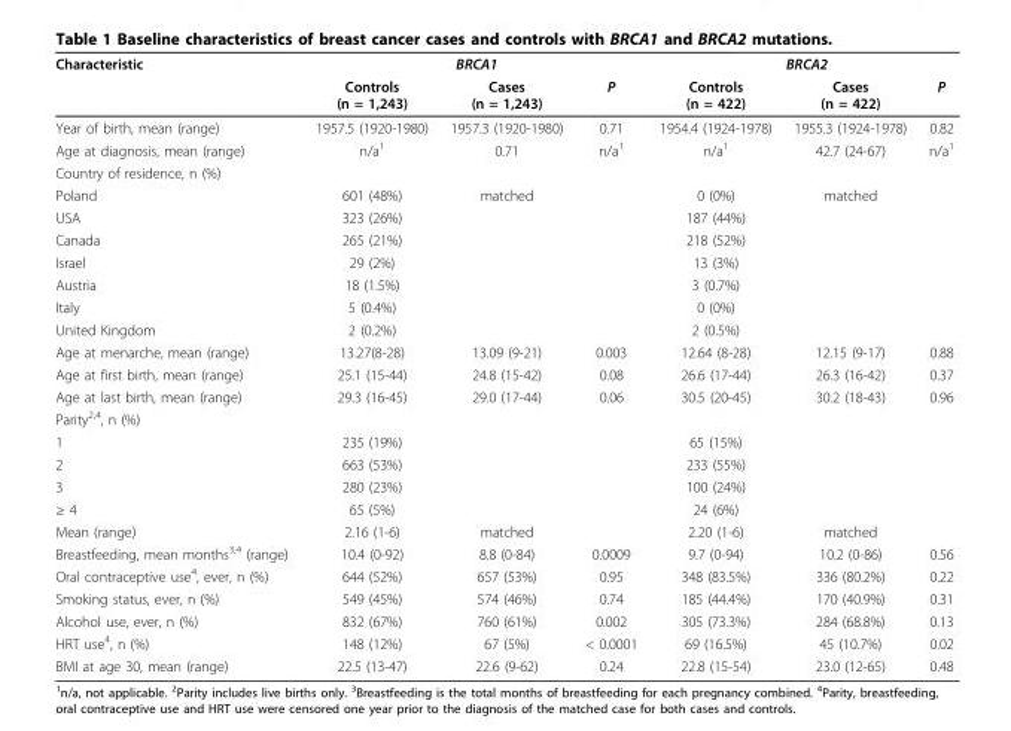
<table><thead><tr><td rowspan="2">Characteristic</td><td colspan="3">BRCA1</td><td colspan="3">BRCA2</td></tr><tr><td>Controls (n = 1,243)</td><td>Cases (n = 1,243)</td><td>P</td><td>Controls (n = 422)</td><td>Cases (n = 422)</td><td>P</td></tr></thead><tbody><tr><td>Year of birth, mean (range)</td><td>1957.5 (1920-1980)</td><td>1957.3 (1920-1980)</td><td>0.71</td><td>1954.4 (1924-1978)</td><td>1955.3 (1924-1978)</td><td>0.82</td></tr><tr><td>Age at diagnosis, mean (range)</td><td>n/a<sup>1</sup></td><td>0.71</td><td>n/a<sup>1</sup></td><td>n/a<sup>1</sup></td><td>42.7 (24-67)</td><td>n/a<sup>1</sup></td></tr><tr><td colspan="7">Country of residence, n (%)</td></tr><tr><td>Poland</td><td>601 (48%)</td><td>matched</td><td></td><td>0 (0%)</td><td>matched</td><td></td></tr><tr><td>USA</td><td>323 (26%)</td><td></td><td></td><td>187 (44%)</td><td></td><td></td></tr><tr><td>Canada</td><td>265 (21%)</td><td></td><td></td><td>218 (52%)</td><td></td><td></td></tr><tr><td>Israel</td><td>29 (2%)</td><td></td><td></td><td>13 (3%)</td><td></td><td></td></tr><tr><td>Austria</td><td>18 (1.5%)</td><td></td><td></td><td>3 (0.7%)</td><td></td><td></td></tr><tr><td>Italy</td><td>5 (0.4%)</td><td></td><td></td><td>0 (0%)</td><td></td><td></td></tr><tr><td>United Kingdom</td><td>2 (0.2%)</td><td></td><td></td><td>2 (0.5%)</td><td></td><td></td></tr><tr><td>Age at menarche, mean (range)</td><td>13.27(8-28)</td><td>13.09 (9-21)</td><td>0.003</td><td>12.64 (8-28)</td><td>12.15 (9-17)</td><td>0.88</td></tr><tr><td>Age at first birth, mean (range)</td><td>25.1 (15-44)</td><td>24.8 (15-42)</td><td>0.08</td><td>26.6 (17-44)</td><td>26.3 (16-42)</td><td>0.37</td></tr><tr><td>Age at last birth, mean (range)</td><td>29.3 (16-45)</td><td>29.0 (17-44)</td><td>0.06</td><td>30.5 (20-45)</td><td>30.2 (18-43)</td><td>0.96</td></tr><tr><td colspan="7">Parity<sup>2,4</sup>, n (%)</td></tr><tr><td>1</td><td>235 (19%)</td><td></td><td></td><td>65 (15%)</td><td></td><td></td></tr><tr><td>2</td><td>663 (53%)</td><td></td><td></td><td>233 (55%)</td><td></td><td></td></tr><tr><td>3</td><td>280 (23%)</td><td></td><td></td><td>100 (24%)</td><td></td><td></td></tr><tr><td>≥ 4</td><td>65 (5%)</td><td></td><td></td><td>24 (6%)</td><td></td><td></td></tr><tr><td>Mean (range)</td><td>2.16 (1-6)</td><td>matched</td><td></td><td>2.20 (1-6)</td><td>matched</td><td></td></tr><tr><td>Breastfeeding, mean months<sup>3,4</sup> (range)</td><td>10.4 (0-92)</td><td>8.8 (0-84)</td><td>0.0009</td><td>9.7 (0-94)</td><td>10.2 (0-86)</td><td>0.56</td></tr><tr><td>Oral contraceptive use<sup>4</sup>, ever, n (%)</td><td>644 (52%)</td><td>657 (53%)</td><td>0.95</td><td>348 (83.5%)</td><td>336 (80.2%)</td><td>0.22</td></tr><tr><td>Smoking status, ever, n (%)</td><td>549 (45%)</td><td>574 (46%)</td><td>0.74</td><td>185 (44.4%)</td><td>170 (40.9%)</td><td>0.31</td></tr><tr><td>Alcohol use, ever, n (%)</td><td>832 (67%)</td><td>760 (61%)</td><td>0.002</td><td>305 (73.3%)</td><td>284 (68.8%)</td><td>0.13</td></tr><tr><td>HRT use<sup>4</sup>, n (%)</td><td>148 (12%)</td><td>67 (5%)</td><td>&lt; 0.0001</td><td>69 (16.5%)</td><td>45 (10.7%)</td><td>0.02</td></tr><tr><td>BMI at age 30, mean (range)</td><td>22.5 (13-47)</td><td>22.6 (9-62)</td><td>0.24</td><td>22.8 (15-54)</td><td>23.0 (12-65)</td><td>0.48</td></tr></tbody></table>